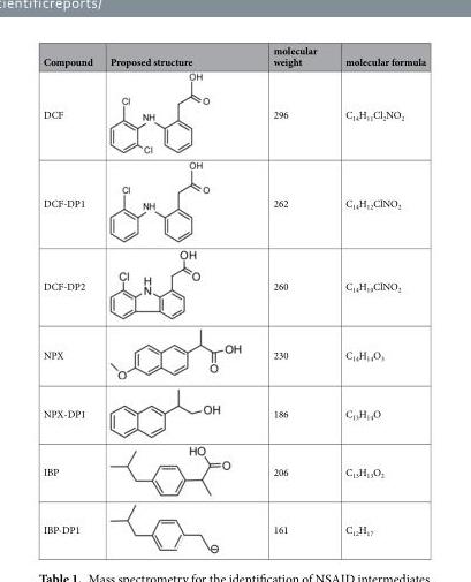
<table><thead><tr><td>Compound</td><td>Proposed structure</td><td>molecular weight</td><td>molecular formula</td></tr></thead><tbody><tr><td>DCF</td><td></td><td>296</td><td>C<sub>14</sub>H<sub>11</sub>Cl<sub>2</sub>NO<sub>2</sub></td></tr><tr><td>DCF-DP1</td><td></td><td>262</td><td>C<sub>14</sub>H<sub>12</sub>ClNO<sub>2</sub></td></tr><tr><td>DCF-DP2</td><td></td><td>260</td><td>C<sub>14</sub>H<sub>10</sub>ClNO<sub>2</sub></td></tr><tr><td>NPX</td><td></td><td>230</td><td>C<sub>14</sub>H<sub>14</sub>O<sub>3</sub></td></tr><tr><td>NPX-DP1</td><td></td><td>186</td><td>C<sub>13</sub>H<sub>14</sub>O</td></tr><tr><td>IBP</td><td></td><td>206</td><td>C<sub>13</sub>H<sub>13</sub>O<sub>2</sub></td></tr><tr><td>IBP-DP1</td><td></td><td>161</td><td>C<sub>12</sub>H<sub>17</sub></td></tr></tbody></table>